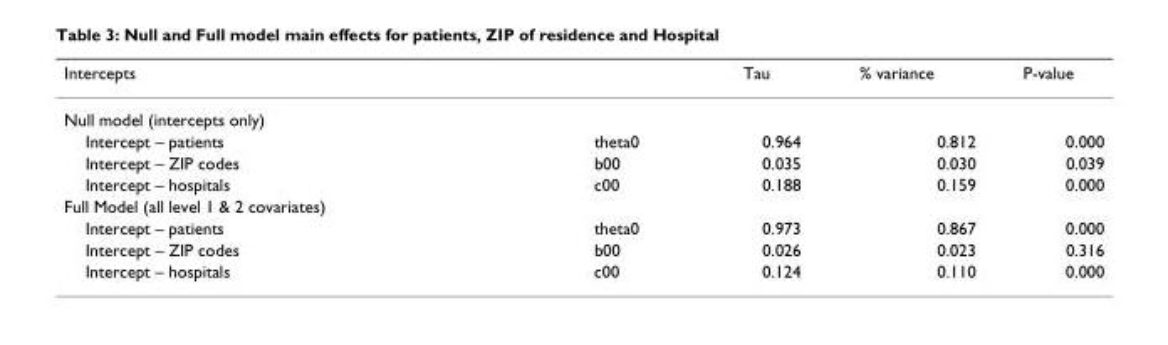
<table><thead><tr><td>Intercepts</td><td></td><td>Tau</td><td>% variance</td><td>P-value</td></tr></thead><tbody><tr><td colspan="5">Null model (intercepts only)</td></tr><tr><td>Intercept – patients</td><td>theta0</td><td>0.964</td><td>0.812</td><td>0.000</td></tr><tr><td>Intercept – ZIP codes</td><td>b00</td><td>0.035</td><td>0.030</td><td>0.039</td></tr><tr><td>Intercept – hospitals</td><td>c00</td><td>0.188</td><td>0.159</td><td>0.000</td></tr><tr><td colspan="5">Full Model (all level 1 &amp; 2 covariates)</td></tr><tr><td>Intercept – patients</td><td>theta0</td><td>0.973</td><td>0.867</td><td>0.000</td></tr><tr><td>Intercept – ZIP codes</td><td>b00</td><td>0.026</td><td>0.023</td><td>0.316</td></tr><tr><td>Intercept – hospitals</td><td>c00</td><td>0.124</td><td>0.110</td><td>0.000</td></tr></tbody></table>